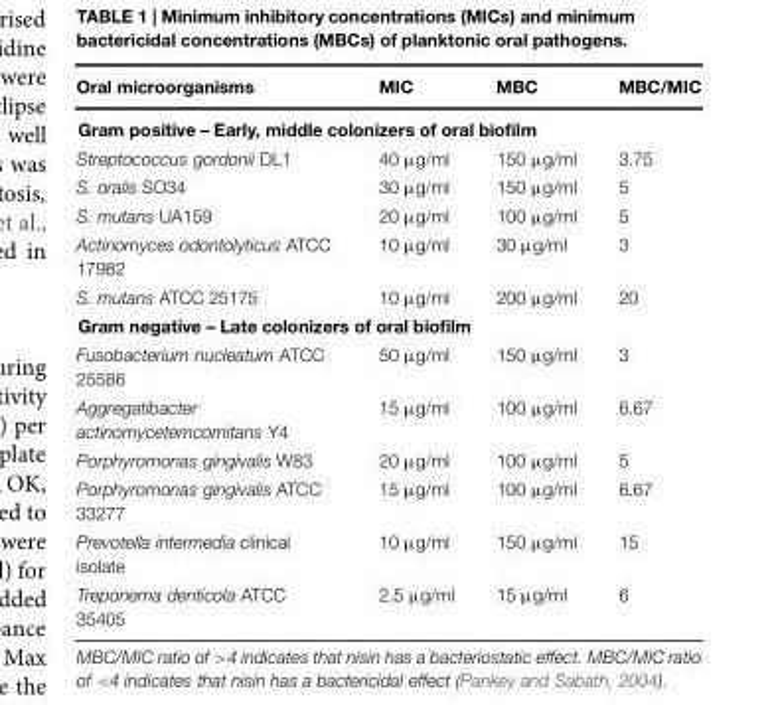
<table><thead><tr><td>Oral microorganisms</td><td>MIC</td><td>MBC</td><td>MBC/MIC</td></tr></thead><tbody><tr><td colspan="4">Gram positive – Early, middle colonizers of oral biofilm</td></tr><tr><td>Streptococcus gordonii DL1</td><td>40 μg/ml</td><td>150 μg/ml</td><td>3.75</td></tr><tr><td>S. oralis SO34</td><td>30 μg/ml</td><td>150 μg/ml</td><td>5</td></tr><tr><td>S. mutans UA159</td><td>20 μg/ml</td><td>100 μg/ml</td><td>5</td></tr><tr><td>Actinomyces odontolyticus ATCC 17982</td><td>10 μg/ml</td><td>30 μg/ml</td><td>3</td></tr><tr><td>S. mutans ATCC 25175</td><td>10 μg/ml</td><td>200 μg/ml</td><td>20</td></tr><tr><td colspan="4">Gram negative – Late colonizers of oral biofilm</td></tr><tr><td>Fusobacterium nucleatum ATCC 25586</td><td>50 μg/ml</td><td>150 μg/ml</td><td>3</td></tr><tr><td>Aggregatibacter actinomycetemcomitans Y4</td><td>15 μg/ml</td><td>100 μg/ml</td><td>6.67</td></tr><tr><td>Porphyromonas gingivalis W83</td><td>20 μg/ml</td><td>100 μg/ml</td><td>5</td></tr><tr><td>Porphyromonas gingivalis ATCC 33277</td><td>15 μg/ml</td><td>100 μg/ml</td><td>6.67</td></tr><tr><td>Prevotella intermedia clinical isolate</td><td>10 μg/ml</td><td>150 μg/ml</td><td>15</td></tr><tr><td>Treponema denticola ATCC 35405</td><td>2.5 μg/ml</td><td>15 μg/ml</td><td>6</td></tr></tbody></table>